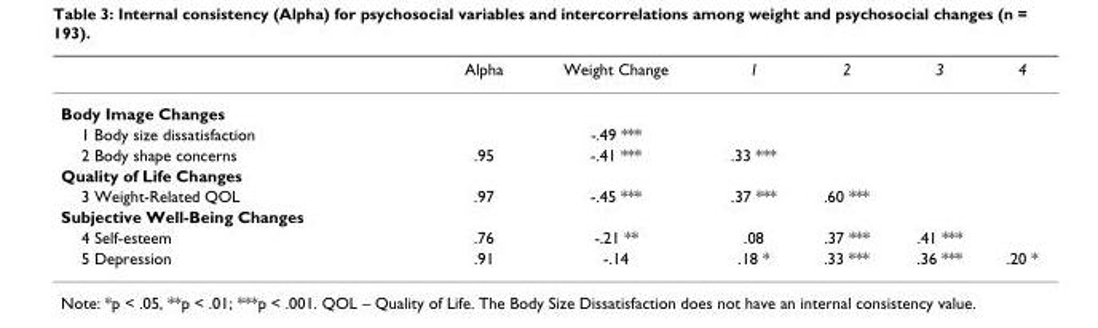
<table><thead><tr><td></td><td>Alpha</td><td>Weight Change</td><td>1</td><td>2</td><td>3</td><td>4</td></tr></thead><tbody><tr><td colspan="7">Body Image Changes</td></tr><tr><td>1 Body size dissatisfaction</td><td></td><td>-.49 ***</td><td></td><td></td><td></td><td></td></tr><tr><td>2 Body shape concerns</td><td>.95</td><td>-.41 ***</td><td>.33 ***</td><td></td><td></td><td></td></tr><tr><td colspan="7">Quality of Life Changes</td></tr><tr><td>3 Weight-Related QOL</td><td>.97</td><td>-.45 ***</td><td>.37 ***</td><td>.60 ***</td><td></td><td></td></tr><tr><td colspan="7">Subjective Well-Being Changes</td></tr><tr><td>4 Self-esteem</td><td>.76</td><td>-.21 **</td><td>.08</td><td>.37 ***</td><td>.41 ***</td><td></td></tr><tr><td>5 Depression</td><td>.91</td><td>-.14</td><td>.18 *</td><td>.33 ***</td><td>.36 ***</td><td>.20 *</td></tr></tbody></table>